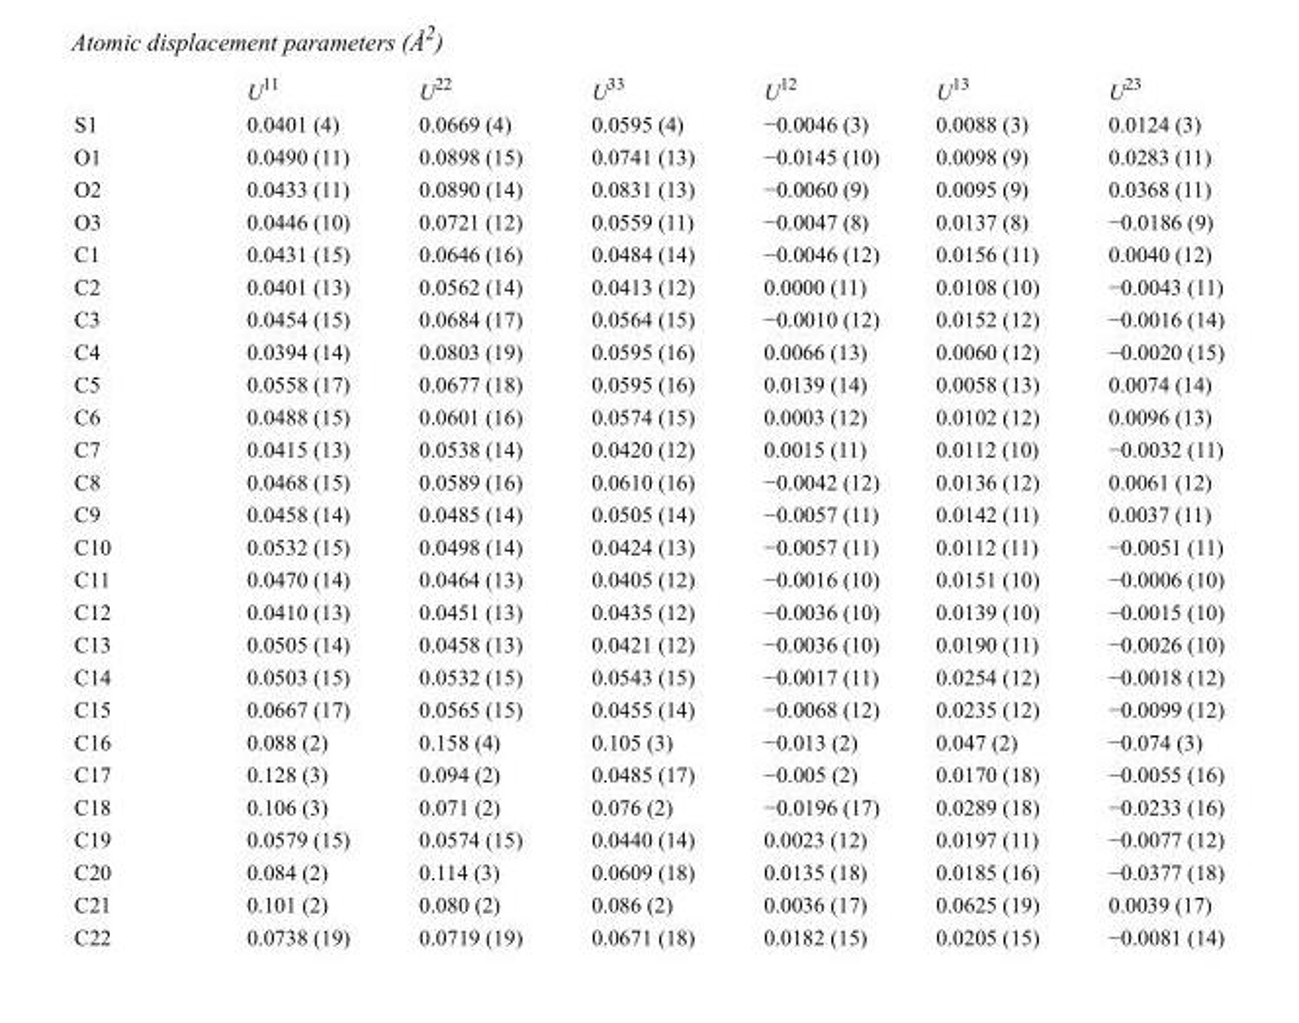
<table><thead><tr><td></td><td>U<sup>11</sup></td><td>U<sup>22</sup></td><td>U<sup>33</sup></td><td>U<sup>12</sup></td><td>U<sup>13</sup></td><td>U<sup>23</sup></td></tr></thead><tbody><tr><td>S1</td><td>0.0401 (4)</td><td>0.0669 (4)</td><td>0.0595 (4)</td><td>−0.0046 (3)</td><td>0.0088 (3)</td><td>0.0124 (3)</td></tr><tr><td>O1</td><td>0.0490 (11)</td><td>0.0898 (15)</td><td>0.0741 (13)</td><td>−0.0145 (10)</td><td>0.0098 (9)</td><td>0.0283 (11)</td></tr><tr><td>O2</td><td>0.0433 (11)</td><td>0.0890 (14)</td><td>0.0831 (13)</td><td>−0.0060 (9)</td><td>0.0095 (9)</td><td>0.0368 (11)</td></tr><tr><td>O3</td><td>0.0446 (10)</td><td>0.0721 (12)</td><td>0.0559 (11)</td><td>−0.0047 (8)</td><td>0.0137 (8)</td><td>−0.0186 (9)</td></tr><tr><td>C1</td><td>0.0431 (15)</td><td>0.0646 (16)</td><td>0.0484 (14)</td><td>−0.0046 (12)</td><td>0.0156 (11)</td><td>0.0040 (12)</td></tr><tr><td>C2</td><td>0.0401 (13)</td><td>0.0562 (14)</td><td>0.0413 (12)</td><td>0.0000 (11)</td><td>0.0108 (10)</td><td>−0.0043 (11)</td></tr><tr><td>C3</td><td>0.0454 (15)</td><td>0.0684 (17)</td><td>0.0564 (15)</td><td>−0.0010 (12)</td><td>0.0152 (12)</td><td>−0.0016 (14)</td></tr><tr><td>C4</td><td>0.0394 (14)</td><td>0.0803 (19)</td><td>0.0595 (16)</td><td>0.0066 (13)</td><td>0.0060 (12)</td><td>−0.0020 (15)</td></tr><tr><td>C5</td><td>0.0558 (17)</td><td>0.0677 (18)</td><td>0.0595 (16)</td><td>0.0139 (14)</td><td>0.0058 (13)</td><td>0.0074 (14)</td></tr><tr><td>C6</td><td>0.0488 (15)</td><td>0.0601 (16)</td><td>0.0574 (15)</td><td>0.0003 (12)</td><td>0.0102 (12)</td><td>0.0096 (13)</td></tr><tr><td>C7</td><td>0.0415 (13)</td><td>0.0538 (14)</td><td>0.0420 (12)</td><td>0.0015 (11)</td><td>0.0112 (10)</td><td>−0.0032 (11)</td></tr><tr><td>C8</td><td>0.0468 (15)</td><td>0.0589 (16)</td><td>0.0610 (16)</td><td>−0.0042 (12)</td><td>0.0136 (12)</td><td>0.0061 (12)</td></tr><tr><td>C9</td><td>0.0458 (14)</td><td>0.0485 (14)</td><td>0.0505 (14)</td><td>−0.0057 (11)</td><td>0.0142 (11)</td><td>0.0037 (11)</td></tr><tr><td>C10</td><td>0.0532 (15)</td><td>0.0498 (14)</td><td>0.0424 (13)</td><td>−0.0057 (11)</td><td>0.0112 (11)</td><td>−0.0051 (11)</td></tr><tr><td>C11</td><td>0.0470 (14)</td><td>0.0464 (13)</td><td>0.0405 (12)</td><td>−0.0016 (10)</td><td>0.0151 (10)</td><td>−0.0006 (10)</td></tr><tr><td>C12</td><td>0.0410 (13)</td><td>0.0451 (13)</td><td>0.0435 (12)</td><td>−0.0036 (10)</td><td>0.0139 (10)</td><td>−0.0015 (10)</td></tr><tr><td>C13</td><td>0.0505 (14)</td><td>0.0458 (13)</td><td>0.0421 (12)</td><td>−0.0036 (10)</td><td>0.0190 (11)</td><td>−0.0026 (10)</td></tr><tr><td>C14</td><td>0.0503 (15)</td><td>0.0532 (15)</td><td>0.0543 (15)</td><td>−0.0017 (11)</td><td>0.0254 (12)</td><td>−0.0018 (12)</td></tr><tr><td>C15</td><td>0.0667 (17)</td><td>0.0565 (15)</td><td>0.0455 (14)</td><td>−0.0068 (12)</td><td>0.0235 (12)</td><td>−0.0099 (12)</td></tr><tr><td>C16</td><td>0.088 (2)</td><td>0.158 (4)</td><td>0.105 (3)</td><td>−0.013 (2)</td><td>0.047 (2)</td><td>−0.074 (3)</td></tr><tr><td>C17</td><td>0.128 (3)</td><td>0.094 (2)</td><td>0.0485 (17)</td><td>−0.005 (2)</td><td>0.0170 (18)</td><td>−0.0055 (16)</td></tr><tr><td>C18</td><td>0.106 (3)</td><td>0.071 (2)</td><td>0.076 (2)</td><td>−0.0196 (17)</td><td>0.0289 (18)</td><td>−0.0233 (16)</td></tr><tr><td>C19</td><td>0.0579 (15)</td><td>0.0574 (15)</td><td>0.0440 (14)</td><td>0.0023 (12)</td><td>0.0197 (11)</td><td>−0.0077 (12)</td></tr><tr><td>C20</td><td>0.084 (2)</td><td>0.114 (3)</td><td>0.0609 (18)</td><td>0.0135 (18)</td><td>0.0185 (16)</td><td>−0.0377 (18)</td></tr><tr><td>C21</td><td>0.101 (2)</td><td>0.080 (2)</td><td>0.086 (2)</td><td>0.0036 (17)</td><td>0.0625 (19)</td><td>0.0039 (17)</td></tr><tr><td>C22</td><td>0.0738 (19)</td><td>0.0719 (19)</td><td>0.0671 (18)</td><td>0.0182 (15)</td><td>0.0205 (15)</td><td>−0.0081 (14)</td></tr></tbody></table>